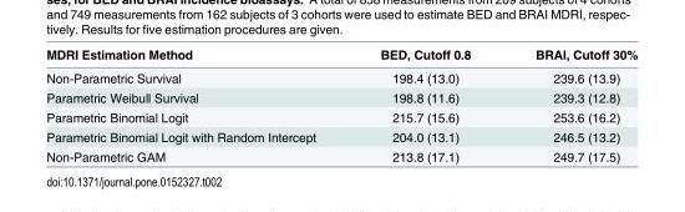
<table><thead><tr><td>MDRI Estimation Method</td><td>BED, Cutoff 0.8</td><td>BRAI, Cutoff 30%</td></tr></thead><tbody><tr><td>Non-Parametric Survival</td><td>198.4 (13.0)</td><td>239.6 (13.9)</td></tr><tr><td>Parametric Weibull Survival</td><td>198.8 (11.6)</td><td>239.3 (12.8)</td></tr><tr><td>Parametric Binomial Logit</td><td>215.7 (15.6)</td><td>253.6 (16.2)</td></tr><tr><td>Parametric Binomial Logit with Random Intercept</td><td>204.0 (13.1)</td><td>246.5 (13.2)</td></tr><tr><td>Non-Parametric GAM</td><td>213.8 (17.1)</td><td>249.7 (17.5)</td></tr></tbody></table>